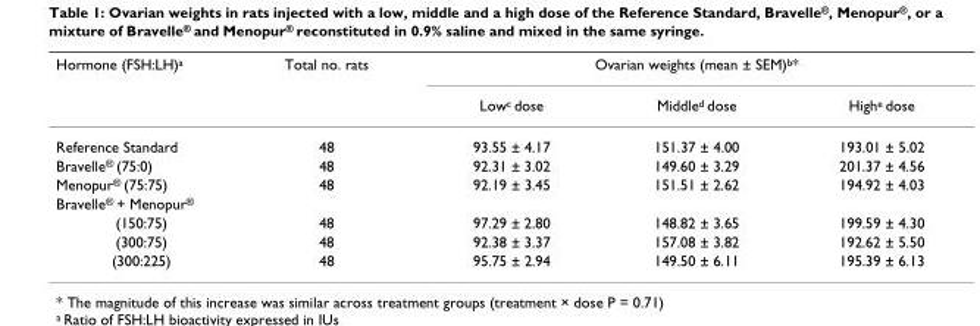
<table><thead><tr><td rowspan="2">Hormone (FSH:LH)<sup>a</sup></td><td rowspan="2">Total no. rats</td><td colspan="3">Ovarian weights (mean ± SEM)<sup>b</sup>*</td></tr><tr><td>Low<sup>c</sup> dose</td><td>Middle<sup>d</sup> dose</td><td>High<sup>e</sup> dose</td></tr></thead><tbody><tr><td>Reference Standard</td><td>48</td><td>93.55 ± 4.17</td><td>151.37 ± 4.00</td><td>193.01 ± 5.02</td></tr><tr><td>Bravelle<sup>®</sup> (75:0)</td><td>48</td><td>92.31 ± 3.02</td><td>149.60 ± 3.29</td><td>201.37 ± 4.56</td></tr><tr><td>Menopur<sup>®</sup> (75:75)</td><td>48</td><td>92.19 ± 3.45</td><td>151.51 ± 2.62</td><td>194.92 ± 4.03</td></tr><tr><td colspan="5">Bravelle<sup>®</sup> + Menopur<sup>®</sup></td></tr><tr><td>(150:75)</td><td>48</td><td>97.29 ± 2.80</td><td>148.82 ± 3.65</td><td>199.59 ± 4.30</td></tr><tr><td>(300:75)</td><td>48</td><td>92.38 ± 3.37</td><td>157.08 ± 3.82</td><td>192.62 ± 5.50</td></tr><tr><td>(300:225)</td><td>48</td><td>95.75 ± 2.94</td><td>149.50 ± 6.11</td><td>195.39 ± 6.13</td></tr></tbody></table>